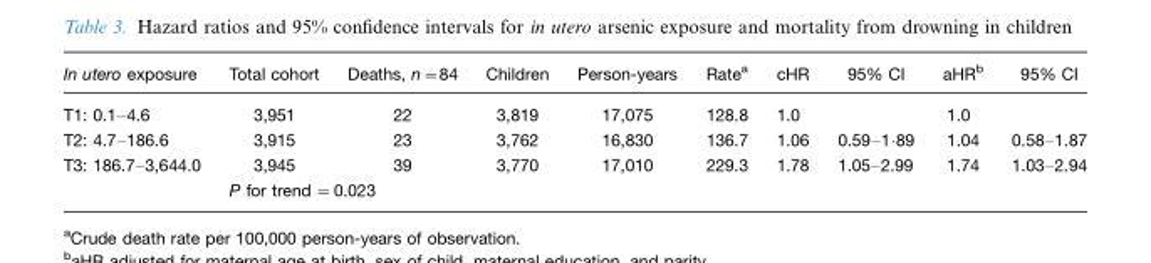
<table><thead><tr><td>In utero exposure</td><td>Total cohort</td><td>Deaths, n=84</td><td>Children</td><td>Person-years</td><td>Rate<sup>a</sup></td><td>cHR</td><td>95% CI</td><td>aHR<sup>b</sup></td><td>95% CI</td></tr></thead><tbody><tr><td>T1: 0.1–4.6</td><td>3,951</td><td>22</td><td>3,819</td><td>17,075</td><td>128.8</td><td>1.0</td><td></td><td>1.0</td><td></td></tr><tr><td>T2: 4.7–186.6</td><td>3,915</td><td>23</td><td>3,762</td><td>16,830</td><td>136.7</td><td>1.06</td><td>0.59–1·89</td><td>1.04</td><td>0.58–1.87</td></tr><tr><td rowspan="2">T3: 186.7–3,644.0</td><td>3,945</td><td>39</td><td>3,770</td><td>17,010</td><td>229.3</td><td>1.78</td><td>1.05–2.99</td><td>1.74</td><td>1.03–2.94</td></tr><tr><td colspan="9">P for trend =0.023</td></tr></tbody></table>